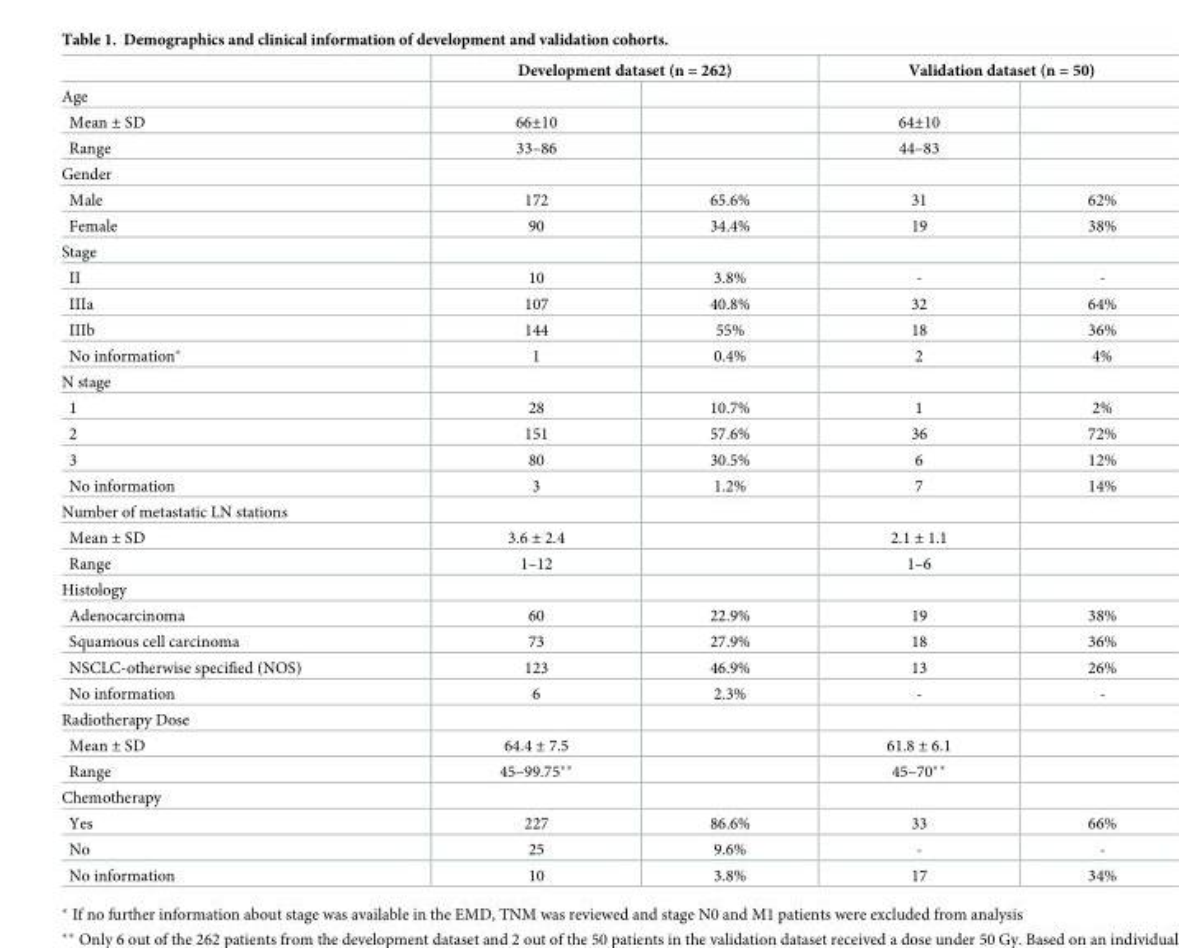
<table><thead><tr><td rowspan="2">Age</td><td colspan="2">Development dataset (n = 262)</td><td colspan="2">Validation dataset (n = 50)</td></tr><tr><td></td><td></td><td></td><td></td></tr></thead><tbody><tr><td>Mean ± SD</td><td>66±10</td><td></td><td>64±10</td><td></td></tr><tr><td>Range</td><td>33–86</td><td></td><td>44–83</td><td></td></tr><tr><td colspan="5">Gender</td></tr><tr><td>Male</td><td>172</td><td>65.6%</td><td>31</td><td>62%</td></tr><tr><td>Female</td><td>90</td><td>34.4%</td><td>19</td><td>38%</td></tr><tr><td colspan="5">Stage</td></tr><tr><td>II</td><td>10</td><td>3.8%</td><td>-</td><td>-</td></tr><tr><td>IIIa</td><td>107</td><td>40.8%</td><td>32</td><td>64%</td></tr><tr><td>IIIb</td><td>144</td><td>55%</td><td>18</td><td>36%</td></tr><tr><td>No information*</td><td>1</td><td>0.4%</td><td>2</td><td>4%</td></tr><tr><td colspan="5">N stage</td></tr><tr><td>1</td><td>28</td><td>10.7%</td><td>1</td><td>2%</td></tr><tr><td>2</td><td>151</td><td>57.6%</td><td>36</td><td>72%</td></tr><tr><td>3</td><td>80</td><td>30.5%</td><td>6</td><td>12%</td></tr><tr><td>No information</td><td>3</td><td>1.2%</td><td>7</td><td>14%</td></tr><tr><td colspan="5">Number of metastatic LN stations</td></tr><tr><td>Mean ± SD</td><td>3.6 ± 2.4</td><td></td><td>2.1 ± 1.1</td><td></td></tr><tr><td>Range</td><td>1–12</td><td></td><td>1–6</td><td></td></tr><tr><td colspan="5">Histology</td></tr><tr><td>Adenocarcinoma</td><td>60</td><td>22.9%</td><td>19</td><td>38%</td></tr><tr><td>Squamous cell carcinoma</td><td>73</td><td>27.9%</td><td>18</td><td>36%</td></tr><tr><td>NSCLC-otherwise specified (NOS)</td><td>123</td><td>46.9%</td><td>13</td><td>26%</td></tr><tr><td>No information</td><td>6</td><td>2.3%</td><td>-</td><td>-</td></tr><tr><td colspan="5">Radiotherapy Dose</td></tr><tr><td>Mean ± SD</td><td>64.4 ± 7.5</td><td></td><td>61.8 ± 6.1</td><td></td></tr><tr><td>Range</td><td>45–99.75**</td><td></td><td>45–70**</td><td></td></tr><tr><td colspan="5">Chemotherapy</td></tr><tr><td>Yes</td><td>227</td><td>86.6%</td><td>33</td><td>66%</td></tr><tr><td>No</td><td>25</td><td>9.6%</td><td>-</td><td>-</td></tr><tr><td>No information</td><td>10</td><td>3.8%</td><td>17</td><td>34%</td></tr></tbody></table>